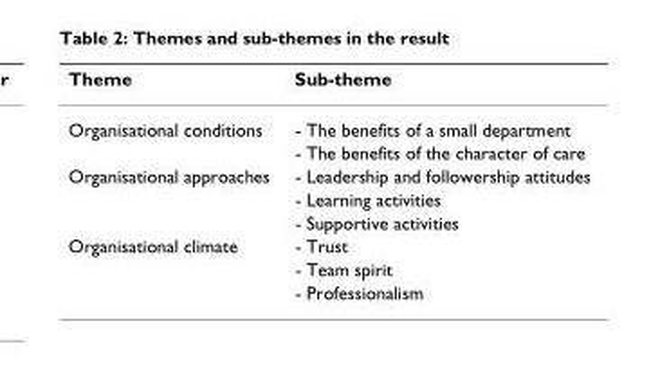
<table><thead><tr><td>Theme</td><td>Sub-theme</td></tr></thead><tbody><tr><td rowspan="2">Organisational conditions</td><td>- The benefits of a small department</td></tr><tr><td>- The benefits of the character of care</td></tr><tr><td rowspan="3">Organisational approaches</td><td>- Leadership and followership attitudes</td></tr><tr><td>- Learning activities</td></tr><tr><td>- Supportive activities</td></tr><tr><td rowspan="3">Organisational climate</td><td>- Trust</td></tr><tr><td>- Team spirit</td></tr><tr><td>- Professionalism</td></tr></tbody></table>